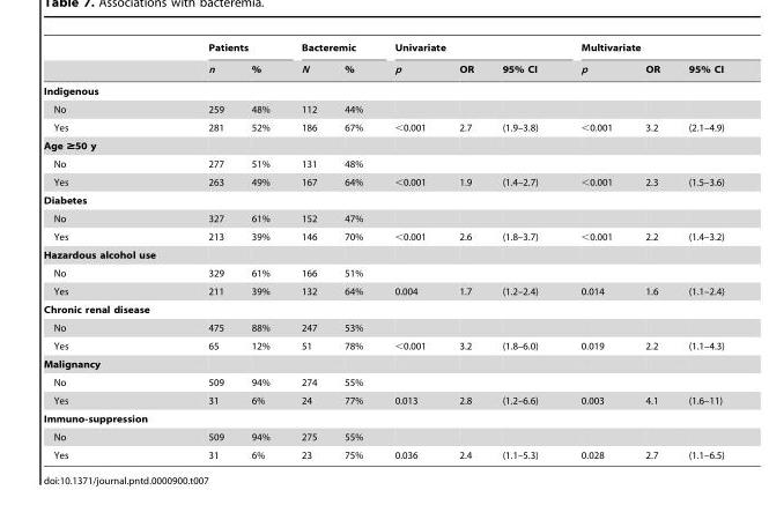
<table><thead><tr><td rowspan="2"></td><td colspan="2">Patients</td><td colspan="2">Bacteremic</td><td colspan="3">Univariate</td><td colspan="3">Multivariate</td></tr><tr><td>n</td><td>%</td><td>N</td><td>%</td><td>p</td><td>OR</td><td>95% CI</td><td>p</td><td>OR</td><td>95% CI</td></tr></thead><tbody><tr><td colspan="11">Indigenous</td></tr><tr><td>No</td><td>259</td><td>48%</td><td>112</td><td>44%</td><td></td><td></td><td></td><td></td><td></td><td></td></tr><tr><td>Yes</td><td>281</td><td>52%</td><td>186</td><td>67%</td><td>&lt;0.001</td><td>2.7</td><td>(1.9–3.8)</td><td>&lt;0.001</td><td>3.2</td><td>(2.1–4.9)</td></tr><tr><td colspan="11">Age ≥50 y</td></tr><tr><td>No</td><td>277</td><td>51%</td><td>131</td><td>48%</td><td></td><td></td><td></td><td></td><td></td><td></td></tr><tr><td>Yes</td><td>263</td><td>49%</td><td>167</td><td>64%</td><td>&lt;0.001</td><td>1.9</td><td>(1.4–2.7)</td><td>&lt;0.001</td><td>2.3</td><td>(1.5–3.6)</td></tr><tr><td colspan="11">Diabetes</td></tr><tr><td>No</td><td>327</td><td>61%</td><td>152</td><td>47%</td><td></td><td></td><td></td><td></td><td></td><td></td></tr><tr><td>Yes</td><td>213</td><td>39%</td><td>146</td><td>70%</td><td>&lt;0.001</td><td>2.6</td><td>(1.8–3.7)</td><td>&lt;0.001</td><td>2.2</td><td>(1.4–3.2)</td></tr><tr><td colspan="11">Hazardous alcohol use</td></tr><tr><td>No</td><td>329</td><td>61%</td><td>166</td><td>51%</td><td></td><td></td><td></td><td></td><td></td><td></td></tr><tr><td>Yes</td><td>211</td><td>39%</td><td>132</td><td>64%</td><td>0.004</td><td>1.7</td><td>(1.2–2.4)</td><td>0.014</td><td>1.6</td><td>(1.1–2.4)</td></tr><tr><td colspan="11">Chronic renal disease</td></tr><tr><td>No</td><td>475</td><td>88%</td><td>247</td><td>53%</td><td></td><td></td><td></td><td></td><td></td><td></td></tr><tr><td>Yes</td><td>65</td><td>12%</td><td>51</td><td>78%</td><td>&lt;0.001</td><td>3.2</td><td>(1.8–6.0)</td><td>0.019</td><td>2.2</td><td>(1.1–4.3)</td></tr><tr><td colspan="11">Malignancy</td></tr><tr><td>No</td><td>509</td><td>94%</td><td>274</td><td>55%</td><td></td><td></td><td></td><td></td><td></td><td></td></tr><tr><td>Yes</td><td>31</td><td>6%</td><td>24</td><td>77%</td><td>0.013</td><td>2.8</td><td>(1.2–6.6)</td><td>0.003</td><td>4.1</td><td>(1.6–11)</td></tr><tr><td colspan="11">Immuno-suppression</td></tr><tr><td>No</td><td>509</td><td>94%</td><td>275</td><td>55%</td><td></td><td></td><td></td><td></td><td></td><td></td></tr><tr><td>Yes</td><td>31</td><td>6%</td><td>23</td><td>75%</td><td>0.036</td><td>2.4</td><td>(1.1–5.3)</td><td>0.028</td><td>2.7</td><td>(1.1–6.5)</td></tr></tbody></table>